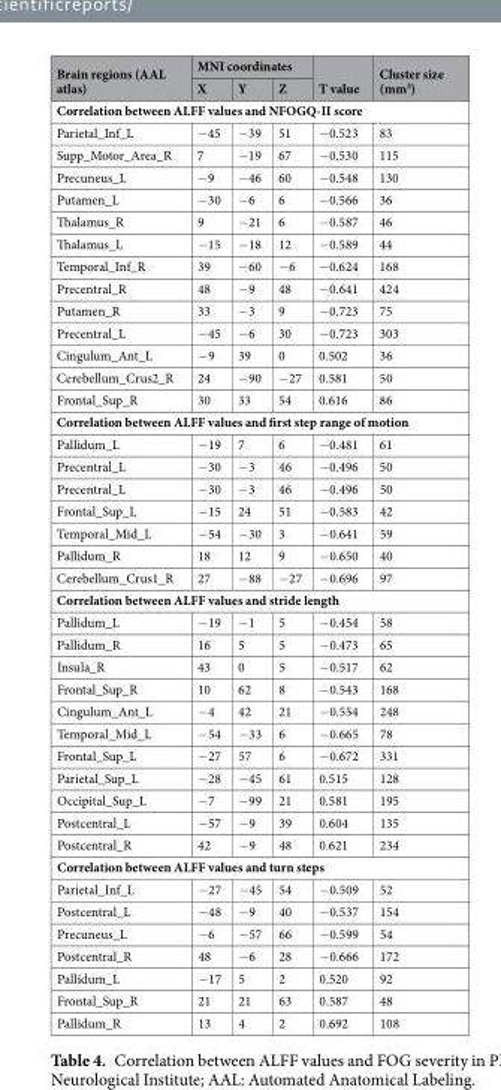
<table><thead><tr><td rowspan="2">Brain regions (AAL atlas)</td><td colspan="3">MNI coordinates</td><td rowspan="2">T value</td><td rowspan="2">Cluster size (mm<sup>3</sup>)</td></tr><tr><td>X</td><td>Y</td><td>Z</td></tr></thead><tbody><tr><td colspan="6">Correlation between ALFF values and NFOGQ-II score</td></tr><tr><td>Parietal_Inf_L</td><td>−45</td><td>−39</td><td>51</td><td>−0.523</td><td>83</td></tr><tr><td>Supp_Motor_Area_R</td><td>7</td><td>−19</td><td>67</td><td>−0.530</td><td>115</td></tr><tr><td>Precuneus_L</td><td>−9</td><td>−46</td><td>60</td><td>−0.548</td><td>130</td></tr><tr><td>Putamen_L</td><td>−30</td><td>−6</td><td>6</td><td>−0.566</td><td>36</td></tr><tr><td>Thalamus_R</td><td>9</td><td>−21</td><td>6</td><td>−0.587</td><td>46</td></tr><tr><td>Thalamus_L</td><td>−15</td><td>−18</td><td>12</td><td>−0.589</td><td>44</td></tr><tr><td>Temporal_Inf_R</td><td>39</td><td>−60</td><td>−6</td><td>−0.624</td><td>168</td></tr><tr><td>Precentral_R</td><td>48</td><td>−9</td><td>48</td><td>−0.641</td><td>424</td></tr><tr><td>Putamen_R</td><td>33</td><td>−3</td><td>9</td><td>−0.723</td><td>75</td></tr><tr><td>Precentral_L</td><td>−45</td><td>−6</td><td>30</td><td>−0.723</td><td>303</td></tr><tr><td>Cingulum_Ant_L</td><td>−9</td><td>39</td><td>0</td><td>0.502</td><td>36</td></tr><tr><td>Cerebellum_Crus2_R</td><td>24</td><td>−90</td><td>−27</td><td>0.581</td><td>50</td></tr><tr><td>Frontal_Sup_R</td><td>30</td><td>33</td><td>54</td><td>0.616</td><td>86</td></tr><tr><td colspan="6">Correlation between ALFF values and first step range of motion</td></tr><tr><td>Pallidum_L</td><td>−19</td><td>7</td><td>6</td><td>−0.481</td><td>61</td></tr><tr><td>Precentral_L</td><td>−30</td><td>−3</td><td>46</td><td>−0.496</td><td>50</td></tr><tr><td>Precentral_L</td><td>−30</td><td>−3</td><td>46</td><td>−0.496</td><td>50</td></tr><tr><td>Frontal_Sup_L</td><td>−15</td><td>24</td><td>51</td><td>−0.583</td><td>42</td></tr><tr><td>Temporal_Mid_L</td><td>−54</td><td>−30</td><td>3</td><td>−0.641</td><td>59</td></tr><tr><td>Pallidum_R</td><td>18</td><td>12</td><td>9</td><td>−0.650</td><td>40</td></tr><tr><td>Cerebellum_Crus1_R</td><td>27</td><td>−88</td><td>−27</td><td>−0.696</td><td>97</td></tr><tr><td colspan="6">Correlation between ALFF values and stride length</td></tr><tr><td>Pallidum_L</td><td>−19</td><td>−1</td><td>5</td><td>−0.454</td><td>58</td></tr><tr><td>Pallidum_R</td><td>16</td><td>5</td><td>5</td><td>−0.473</td><td>65</td></tr><tr><td>Insula_R</td><td>43</td><td>0</td><td>5</td><td>−0.517</td><td>62</td></tr><tr><td>Frontal_Sup_R</td><td>10</td><td>62</td><td>8</td><td>−0.543</td><td>168</td></tr><tr><td>Cingulum_Ant_L</td><td>−4</td><td>42</td><td>21</td><td>−0.554</td><td>248</td></tr><tr><td>Temporal_Mid_L</td><td>−54</td><td>−33</td><td>6</td><td>−0.665</td><td>78</td></tr><tr><td>Frontal_Sup_L</td><td>−27</td><td>57</td><td>6</td><td>−0.672</td><td>331</td></tr><tr><td>Parietal_Sup_L</td><td>−28</td><td>−45</td><td>61</td><td>0.515</td><td>128</td></tr><tr><td>Occipital_Sup_L</td><td>−7</td><td>−99</td><td>21</td><td>0.581</td><td>195</td></tr><tr><td>Postcentral_L</td><td>−57</td><td>−9</td><td>39</td><td>0.604</td><td>135</td></tr><tr><td>Postcentral_R</td><td>42</td><td>−9</td><td>48</td><td>0.621</td><td>234</td></tr><tr><td colspan="6">Correlation between ALFF values and turn steps</td></tr><tr><td>Parietal_Inf_L</td><td>−27</td><td>−45</td><td>54</td><td>−0.509</td><td>52</td></tr><tr><td>Postcentral_L</td><td>−48</td><td>−9</td><td>40</td><td>−0.537</td><td>154</td></tr><tr><td>Precuneus_L</td><td>−6</td><td>−57</td><td>66</td><td>−0.599</td><td>54</td></tr><tr><td>Postcentral_R</td><td>48</td><td>−6</td><td>28</td><td>−0.666</td><td>172</td></tr><tr><td>Pallidum_L</td><td>−17</td><td>5</td><td>2</td><td>0.520</td><td>92</td></tr><tr><td>Frontal_Sup_R</td><td>21</td><td>21</td><td>63</td><td>0.587</td><td>48</td></tr><tr><td>Pallidum_R</td><td>13</td><td>4</td><td>2</td><td>0.692</td><td>108</td></tr></tbody></table>